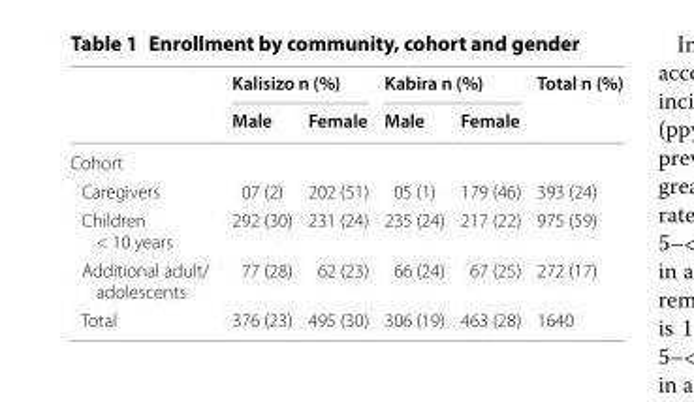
<table><thead><tr><td rowspan="2"></td><td colspan="2">Kalisizo n (%)</td><td colspan="2">Kabira n (%)</td><td rowspan="2">Total n (%)</td></tr><tr><td>Male</td><td>Female</td><td>Male</td><td>Female</td></tr></thead><tbody><tr><td colspan="6">Cohort</td></tr><tr><td>Caregivers</td><td>07 (2)</td><td>202 (51)</td><td>05 (1)</td><td>179 (46)</td><td>393 (24)</td></tr><tr><td>Children &lt; 10 years</td><td>292 (30)</td><td>231 (24)</td><td>235 (24)</td><td>217 (22)</td><td>975 (59)</td></tr><tr><td>Additional adult/ adolescents</td><td>77 (28)</td><td>62 (23)</td><td>66 (24)</td><td>67 (25)</td><td>272 (17)</td></tr><tr><td>Total</td><td>376 (23)</td><td>495 (30)</td><td>306 (19)</td><td>463 (28)</td><td>1640</td></tr></tbody></table>